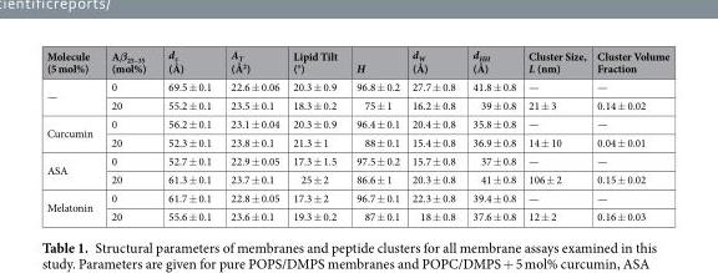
<table><thead><tr><td>Molecule (5 mol%)</td><td>Aβ<sub>25–35</sub> (mol%)</td><td>d<sub>z</sub> (Å)</td><td>A<sub>T</sub> (Å<sup>2</sup>)</td><td>Lipid Tilt (°)</td><td>H</td><td>d<sub>W</sub> (Å)</td><td>d<sub>HH</sub> (Å)</td><td>Cluster Size, L (nm)</td><td>Cluster Volume Fraction</td></tr></thead><tbody><tr><td rowspan="2">—</td><td>0</td><td>69.5 ± 0.1</td><td>22.6 ± 0.06</td><td>20.3 ± 0.9</td><td>96.8 ± 0.2</td><td>27.7 ± 0.8</td><td>41.8 ± 0.8</td><td>—</td><td>—</td></tr><tr><td>20</td><td>55.2 ± 0.1</td><td>23.5 ± 0.1</td><td>18.3 ± 0.2</td><td>75 ± 1</td><td>16.2 ± 0.8</td><td>39 ± 0.8</td><td>21 ± 3</td><td>0.14 ± 0.02</td></tr><tr><td rowspan="2">Curcumin</td><td>0</td><td>56.2 ± 0.1</td><td>23.1 ± 0.04</td><td>20.3 ± 0.9</td><td>96.4 ± 0.1</td><td>20.4 ± 0.8</td><td>35.8 ± 0.8</td><td>—</td><td>—</td></tr><tr><td>20</td><td>52.3 ± 0.1</td><td>23.8 ± 0.1</td><td>21.3 ± 1</td><td>88 ± 0.1</td><td>15.4 ± 0.8</td><td>36.9 ± 0.8</td><td>14 ± 10</td><td>0.04 ± 0.01</td></tr><tr><td rowspan="2">ASA</td><td>0</td><td>52.7 ± 0.1</td><td>22.9 ± 0.05</td><td>17.3 ± 1.5</td><td>97.5 ± 0.2</td><td>15.7 ± 0.8</td><td>37 ± 0.8</td><td>—</td><td>—</td></tr><tr><td>20</td><td>61.3 ± 0.1</td><td>23.7 ± 0.1</td><td>25 ± 2</td><td>86.6 ± 1</td><td>20.3 ± 0.8</td><td>41 ± 0.8</td><td>106 ± 2</td><td>0.15 ± 0.02</td></tr><tr><td rowspan="2">Melatonin</td><td>0</td><td>61.7 ± 0.1</td><td>22.8 ± 0.05</td><td>17.3 ± 2</td><td>96.7 ± 0.1</td><td>22.3 ± 0.8</td><td>39.4 ± 0.8</td><td>—</td><td>—</td></tr><tr><td>20</td><td>55.6 ± 0.1</td><td>23.6 ± 0.1</td><td>19.3 ± 0.2</td><td>87 ± 0.1</td><td>18 ± 0.8</td><td>37.6 ± 0.8</td><td>12 ± 2</td><td>0.16 ± 0.03</td></tr></tbody></table>